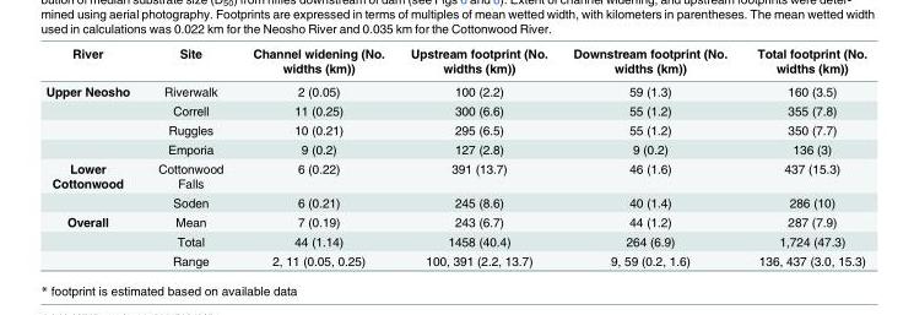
<table><thead><tr><td>River</td><td>Site</td><td>Channel widening (No. widths (km))</td><td>Upstream footprint (No. widths (km))</td><td>Downstream footprint (No. widths (km))</td><td>Total footprint (No. widths (km))</td></tr></thead><tbody><tr><td rowspan="4">Upper Neosho</td><td>Riverwalk</td><td>2 (0.05)</td><td>100 (2.2)</td><td>59 (1.3)</td><td>160 (3.5)</td></tr><tr><td>Correll</td><td>11 (0.25)</td><td>300 (6.6)</td><td>55 (1.2)</td><td>355 (7.8)</td></tr><tr><td>Ruggles</td><td>10 (0.21)</td><td>295 (6.5)</td><td>55 (1.2)</td><td>350 (7.7)</td></tr><tr><td>Emporia</td><td>9 (0.2)</td><td>127 (2.8)</td><td>9 (0.2)</td><td>136 (3)</td></tr><tr><td rowspan="2">Lower Cottonwood</td><td>Cottonwood Falls</td><td>6 (0.22)</td><td>391 (13.7)</td><td>46 (1.6)</td><td>437 (15.3)</td></tr><tr><td>Soden</td><td>6 (0.21)</td><td>245 (8.6)</td><td>40 (1.4)</td><td>286 (10)</td></tr><tr><td rowspan="3">Overall</td><td>Mean</td><td>7 (0.19)</td><td>243 (6.7)</td><td>44 (1.2)</td><td>287 (7.9)</td></tr><tr><td>Total</td><td>44 (1.14)</td><td>1458 (40.4)</td><td>264 (6.9)</td><td>1,724 (47.3)</td></tr><tr><td>Range</td><td>2, 11 (0.05, 0.25)</td><td>100, 391 (2.2, 13.7)</td><td>9, 59 (0.2, 1.6)</td><td>136, 437 (3.0, 15.3)</td></tr></tbody></table>